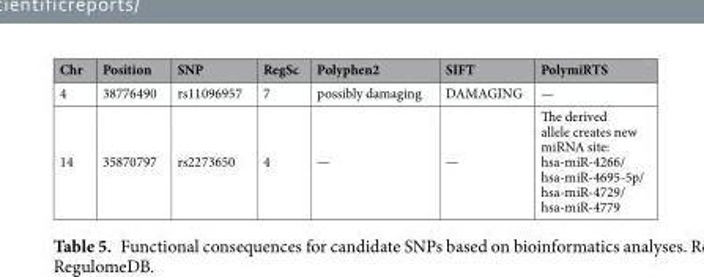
<table><thead><tr><td>Chr</td><td>Position</td><td>SNP</td><td>RegSc</td><td>Polyphen2</td><td>SIFT</td><td>PolymiRTS</td></tr></thead><tbody><tr><td>4</td><td>38776490</td><td>rs11096957</td><td>7</td><td>possibly damaging</td><td>DAMAGING</td><td>—</td></tr><tr><td>14</td><td>35870797</td><td>rs2273650</td><td>4</td><td>—</td><td>—</td><td>The derived allele creates new miRNA site: hsa-miR-4266/ hsa-miR-4695-5p/ hsa-miR-4729/ hsa-miR-4779</td></tr></tbody></table>